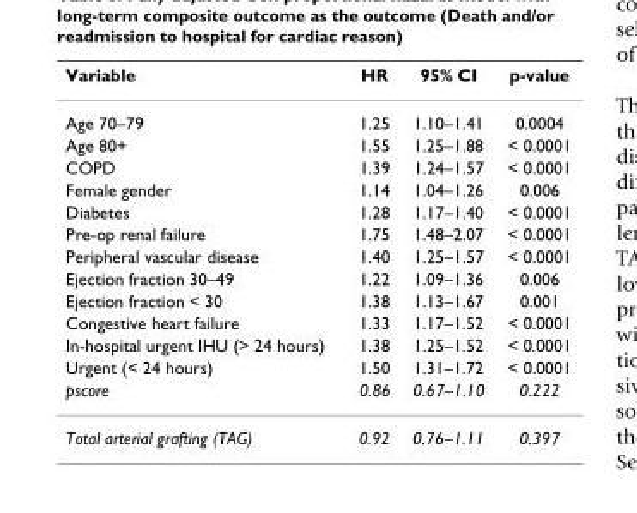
<table><thead><tr><td>Variable</td><td>HR</td><td>95% CI</td><td>p-value</td></tr></thead><tbody><tr><td>Age 70–79</td><td>1.25</td><td>1.10–1.41</td><td>0.0004</td></tr><tr><td>Age 80+</td><td>1.55</td><td>1.25–1.88</td><td>&lt; 0.0001</td></tr><tr><td>COPD</td><td>1.39</td><td>1.24–1.57</td><td>&lt; 0.0001</td></tr><tr><td>Female gender</td><td>1.14</td><td>1.04–1.26</td><td>0.006</td></tr><tr><td>Diabetes</td><td>1.28</td><td>1.17–1.40</td><td>&lt; 0.0001</td></tr><tr><td>Pre-op renal failure</td><td>1.75</td><td>1.48–2.07</td><td>&lt; 0.0001</td></tr><tr><td>Peripheral vascular disease</td><td>1.40</td><td>1.25–1.57</td><td>&lt; 0.0001</td></tr><tr><td>Ejection fraction 30–49</td><td>1.22</td><td>1.09–1.36</td><td>0.006</td></tr><tr><td>Ejection fraction &lt; 30</td><td>1.38</td><td>1.13–1.67</td><td>0.001</td></tr><tr><td>Congestive heart failure</td><td>1.33</td><td>1.17–1.52</td><td>&lt; 0.0001</td></tr><tr><td>In-hospital urgent IHU (&gt; 24 hours)</td><td>1.38</td><td>1.25–1.52</td><td>&lt; 0.0001</td></tr><tr><td>Urgent (&lt; 24 hours)</td><td>1.50</td><td>1.31–1.72</td><td>&lt; 0.0001</td></tr><tr><td>pscore</td><td>0.86</td><td>0.67–1.10</td><td>0.222</td></tr><tr><td>Total arterial grafting (TAG)</td><td>0.92</td><td>0.76–1.11</td><td>0.397</td></tr></tbody></table>